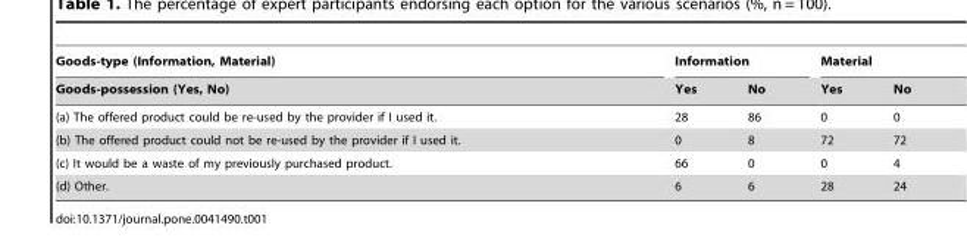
<table><thead><tr><td rowspan="2">Goods-type (Information, Material) Goods-possession (Yes, No)</td><td colspan="2">Information</td><td colspan="2">Material</td></tr><tr><td>Yes</td><td>No</td><td>Yes</td><td>No</td></tr></thead><tbody><tr><td>(a) The offered product could be re-used by the provider if I used it.</td><td>28</td><td>86</td><td>0</td><td>0</td></tr><tr><td>(b) The offered product could not be re-used by the provider if I used it.</td><td>0</td><td>8</td><td>72</td><td>72</td></tr><tr><td>(c) It would be a waste of my previously purchased product.</td><td>66</td><td>0</td><td>0</td><td>4</td></tr><tr><td>(d) Other.</td><td>6</td><td>6</td><td>28</td><td>24</td></tr></tbody></table>